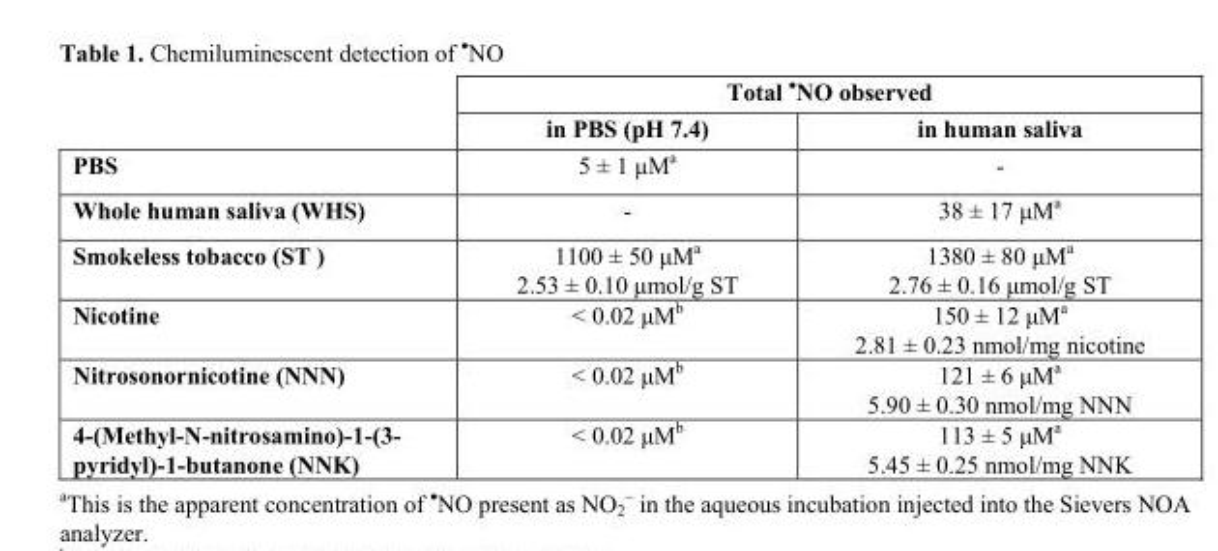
<table><thead><tr><td rowspan="2"></td><td colspan="2">Total <sup>•</sup>NO observed</td></tr><tr><td>in PBS (pH 7.4)</td><td>in human saliva</td></tr></thead><tbody><tr><td>PBS</td><td>5 ± 1 µM<sup>a</sup></td><td>-</td></tr><tr><td>Whole human saliva (WHS)</td><td>-</td><td>38 ± 17 µM<sup>a</sup></td></tr><tr><td>Smokeless tobacco (ST )</td><td>1100 ± 50 µM<sup>a</sup> 2.53 ± 0.10 µmol/g ST</td><td>1380 ± 80 µM<sup>a</sup> 2.76 ± 0.16 µmol/g ST</td></tr><tr><td>Nicotine</td><td>&lt; 0.02 µMb</td><td>150 ± 12 µM<sup>a</sup> 2.81 ± 0.23 nmol/mg nicotine</td></tr><tr><td>Nitrosonornicotine (NNN)</td><td>&lt; 0.02 µMb</td><td>121 ± 6 µMa 5.90 ± 0.30 nmol/mg NNN</td></tr><tr><td>4-(Methyl-N-nitrosamino)-1-(3- pyridyl)-1-butanone (NNK)</td><td>&lt; 0.02 µMb</td><td>113 ± 5 µMa 5.45 ± 0.25 nmol/mg NNK</td></tr></tbody></table>